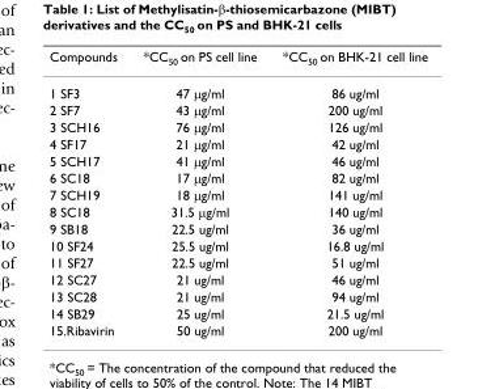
<table><thead><tr><td>Compounds</td><td>*CC<sub>50</sub> on PS cell line</td><td>*CC<sub>50</sub> on BHK-21 cell line</td></tr></thead><tbody><tr><td>1 SF3</td><td>47 µg/ml</td><td>86 ug/ml</td></tr><tr><td>2 SF7</td><td>43 µg/ml</td><td>200 ug/ml</td></tr><tr><td>3 SCH16</td><td>76 µg/ml</td><td>126 ug/ml</td></tr><tr><td>4 SF17</td><td>21 µg/ml</td><td>42 ug/ml</td></tr><tr><td>5 SCH17</td><td>41 µg/ml</td><td>46 ug/ml</td></tr><tr><td>6 SC18</td><td>17 µg/ml</td><td>82 ug/ml</td></tr><tr><td>7 SCH19</td><td>18 µg/ml</td><td>141 ug/ml</td></tr><tr><td>8 SC18</td><td>31.5 µg/ml</td><td>140 ug/ml</td></tr><tr><td>9 SB18</td><td>22.5 ug/ml</td><td>36 ug/ml</td></tr><tr><td>10 SF24</td><td>25.5 ug/ml</td><td>16.8 ug/ml</td></tr><tr><td>11 SF27</td><td>22.5 ug/ml</td><td>51 ug/ml</td></tr><tr><td>12 SC27</td><td>21 ug/ml</td><td>46 ug/ml</td></tr><tr><td>13 SC28</td><td>21 ug/ml</td><td>94 ug/ml</td></tr><tr><td>14 SB29</td><td>25 ug/ml</td><td>21.5 ug/ml</td></tr><tr><td>15.Ribavirin</td><td>50 ug/ml</td><td>200 ug/ml</td></tr></tbody></table>